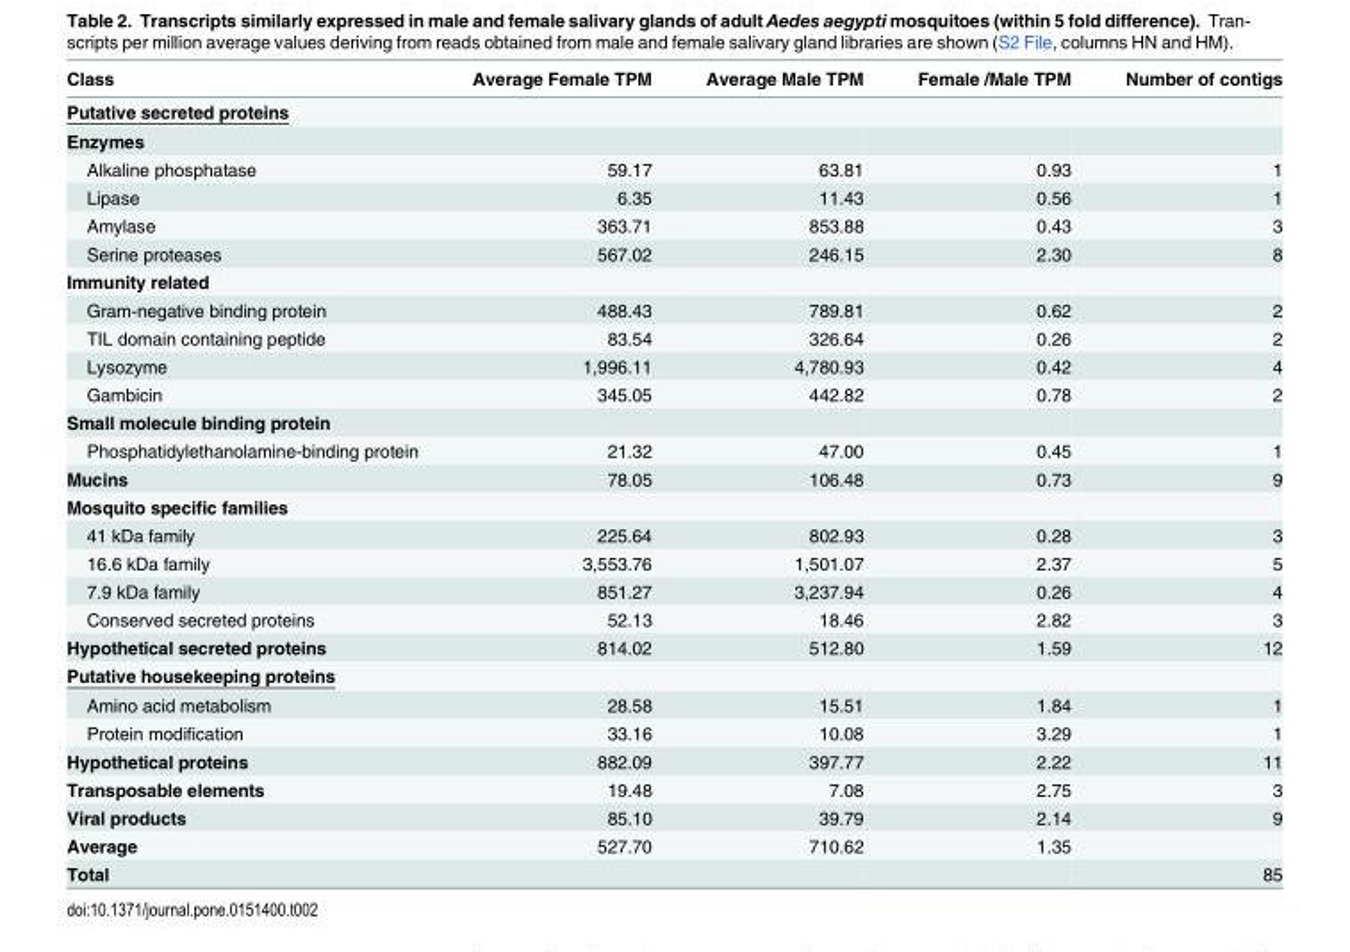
<table><thead><tr><td>Class</td><td>Average Female TPM</td><td>Average Male TPM</td><td>Female /Male TPM</td><td>Number of contigs</td></tr></thead><tbody><tr><td colspan="5">Putative secreted proteins</td></tr><tr><td colspan="5">Enzymes</td></tr><tr><td>Alkaline phosphatase</td><td>59.17</td><td>63.81</td><td>0.93</td><td>1</td></tr><tr><td>Lipase</td><td>6.35</td><td>11.43</td><td>0.56</td><td>1</td></tr><tr><td>Amylase</td><td>363.71</td><td>853.88</td><td>0.43</td><td>3</td></tr><tr><td>Serine proteases</td><td>567.02</td><td>246.15</td><td>2.30</td><td>8</td></tr><tr><td colspan="5">Immunity related</td></tr><tr><td>Gram-negative binding protein</td><td>488.43</td><td>789.81</td><td>0.62</td><td>2</td></tr><tr><td>TIL domain containing peptide</td><td>83.54</td><td>326.64</td><td>0.26</td><td>2</td></tr><tr><td>Lysozyme</td><td>1,996.11</td><td>4,780.93</td><td>0.42</td><td>4</td></tr><tr><td>Gambicin</td><td>345.05</td><td>442.82</td><td>0.78</td><td>2</td></tr><tr><td colspan="5">Small molecule binding protein</td></tr><tr><td>Phosphatidylethanolamine-binding protein</td><td>21.32</td><td>47.00</td><td>0.45</td><td>1</td></tr><tr><td>Mucins</td><td>78.05</td><td>106.48</td><td>0.73</td><td>9</td></tr><tr><td colspan="5">Mosquito specific families</td></tr><tr><td>41 kDa family</td><td>225.64</td><td>802.93</td><td>0.28</td><td>3</td></tr><tr><td>16.6 kDa family</td><td>3,553.76</td><td>1,501.07</td><td>2.37</td><td>5</td></tr><tr><td>7.9 kDa family</td><td>851.27</td><td>3,237.94</td><td>0.26</td><td>4</td></tr><tr><td>Conserved secreted proteins</td><td>52.13</td><td>18.46</td><td>2.82</td><td>3</td></tr><tr><td>Hypothetical secreted proteins</td><td>814.02</td><td>512.80</td><td>1.59</td><td>12</td></tr><tr><td colspan="5">Putative housekeeping proteins</td></tr><tr><td>Amino acid metabolism</td><td>28.58</td><td>15.51</td><td>1.84</td><td>1</td></tr><tr><td>Protein modification</td><td>33.16</td><td>10.08</td><td>3.29</td><td>1</td></tr><tr><td>Hypothetical proteins</td><td>882.09</td><td>397.77</td><td>2.22</td><td>11</td></tr><tr><td>Transposable elements</td><td>19.48</td><td>7.08</td><td>2.75</td><td>3</td></tr><tr><td>Viral products</td><td>85.10</td><td>39.79</td><td>2.14</td><td>9</td></tr><tr><td>Average</td><td>527.70</td><td>710.62</td><td>1.35</td><td></td></tr><tr><td>Total</td><td></td><td></td><td></td><td>85</td></tr></tbody></table>